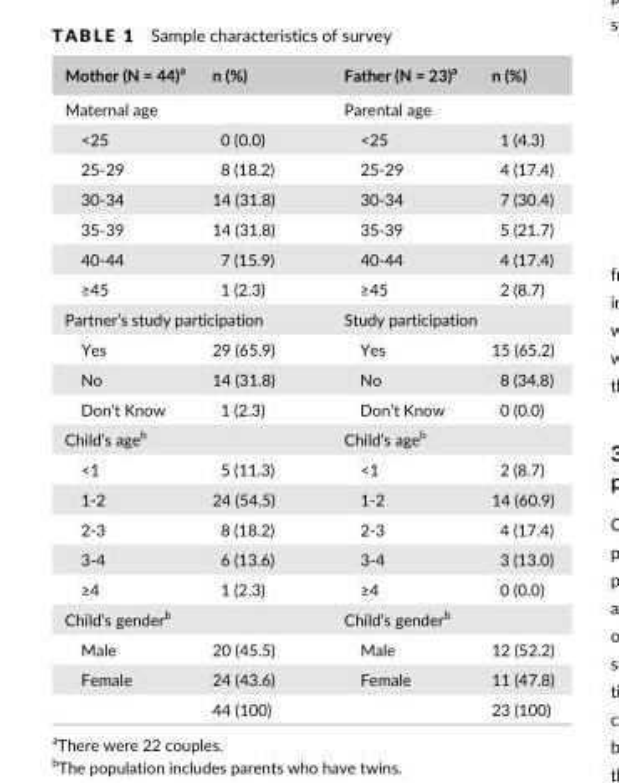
<table><thead><tr><td>Mother (N = 44)<sup>a</sup></td><td>n (%)</td><td>Father (N = 23)<sup>a</sup></td><td>n (%)</td></tr></thead><tbody><tr><td colspan="2">Maternal age</td><td colspan="2">Parental age</td></tr><tr><td>&lt;25</td><td>0 (0.0)</td><td>&lt;25</td><td>1 (4.3)</td></tr><tr><td>25- 29</td><td>8 (18.2)</td><td>25- 29</td><td>4 (17.4)</td></tr><tr><td>30- 34</td><td>14 (31.8)</td><td>30- 34</td><td>7 (30.4)</td></tr><tr><td>35- 39</td><td>14 (31.8)</td><td>35- 39</td><td>5 (21.7)</td></tr><tr><td>40- 44</td><td>7 (15.9)</td><td>40- 44</td><td>4 (17.4)</td></tr><tr><td>≥45</td><td>1 (2.3)</td><td>≥45</td><td>2 (8.7)</td></tr><tr><td colspan="2">Partner’s study participation</td><td colspan="2">Study participation</td></tr><tr><td>Yes</td><td>29 (65.9)</td><td>Yes</td><td>15 (65.2)</td></tr><tr><td>No</td><td>14 (31.8)</td><td>No</td><td>8 (34.8)</td></tr><tr><td>Don’t Know</td><td>1 (2.3)</td><td>Don’t Know</td><td>0 (0.0)</td></tr><tr><td colspan="2">Child’s age<sup>b</sup></td><td colspan="2">Child’s age<sup>b</sup></td></tr><tr><td>&lt;1</td><td>5 (11.3)</td><td>&lt;1</td><td>2 (8.7)</td></tr><tr><td>1- 2</td><td>24 (54.5)</td><td>1- 2</td><td>14 (60.9)</td></tr><tr><td>2- 3</td><td>8 (18.2)</td><td>2- 3</td><td>4 (17.4)</td></tr><tr><td>3- 4</td><td>6 (13.6)</td><td>3- 4</td><td>3 (13.0)</td></tr><tr><td>≥4</td><td>1 (2.3)</td><td>≥4</td><td>0 (0.0)</td></tr><tr><td colspan="2">Child’s gender<sup>b</sup></td><td colspan="2">Child’s gender<sup>b</sup></td></tr><tr><td>Male</td><td>20 (45.5)</td><td>Male</td><td>12 (52.2)</td></tr><tr><td rowspan="2">Female</td><td>24 (43.6)</td><td>Female</td><td>11 (47.8)</td></tr><tr><td>44 (100)</td><td></td><td>23 (100)</td></tr></tbody></table>